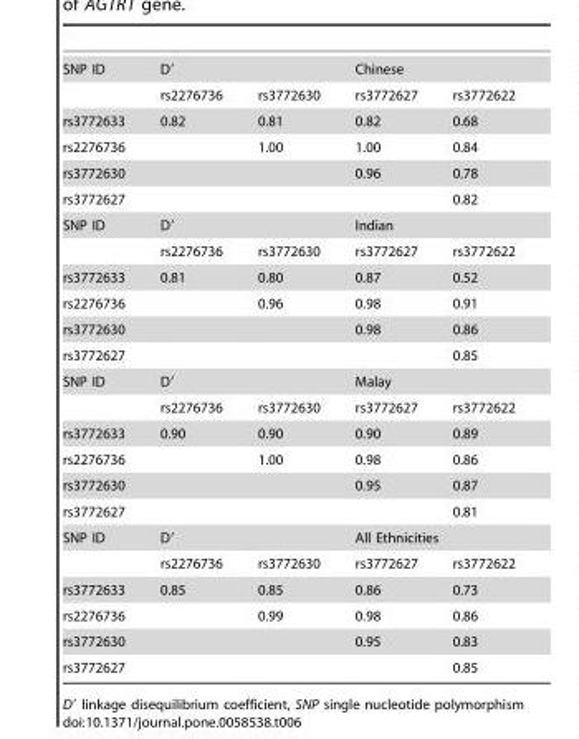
<table><tbody><tr><td rowspan="2">SNP ID</td><td colspan="2">D′</td><td colspan="2">Chinese</td></tr><tr><td>rs2276736</td><td>rs3772630</td><td>rs3772627</td><td>rs3772622</td></tr><tr><td>rs3772633</td><td>0.82</td><td>0.81</td><td>0.82</td><td>0.68</td></tr><tr><td>rs2276736</td><td></td><td>1.00</td><td>1.00</td><td>0.84</td></tr><tr><td>rs3772630</td><td></td><td></td><td>0.96</td><td>0.78</td></tr><tr><td>rs3772627</td><td></td><td></td><td></td><td>0.82</td></tr><tr><td rowspan="2">SNP ID</td><td colspan="2">D′</td><td colspan="2">Indian</td></tr><tr><td>rs2276736</td><td>rs3772630</td><td>rs3772627</td><td>rs3772622</td></tr><tr><td>rs3772633</td><td>0.81</td><td>0.80</td><td>0.87</td><td>0.52</td></tr><tr><td>rs2276736</td><td></td><td>0.96</td><td>0.98</td><td>0.91</td></tr><tr><td>rs3772630</td><td></td><td></td><td>0.98</td><td>0.86</td></tr><tr><td>rs3772627</td><td></td><td></td><td></td><td>0.85</td></tr><tr><td rowspan="2">SNP ID</td><td colspan="2">D′</td><td colspan="2">Malay</td></tr><tr><td>rs2276736</td><td>rs3772630</td><td>rs3772627</td><td>rs3772622</td></tr><tr><td>rs3772633</td><td>0.90</td><td>0.90</td><td>0.90</td><td>0.89</td></tr><tr><td>rs2276736</td><td></td><td>1.00</td><td>0.98</td><td>0.86</td></tr><tr><td>rs3772630</td><td></td><td></td><td>0.95</td><td>0.87</td></tr><tr><td>rs3772627</td><td></td><td></td><td></td><td>0.81</td></tr><tr><td rowspan="2">SNP ID</td><td colspan="2">D′</td><td colspan="2">All Ethnicities</td></tr><tr><td>rs2276736</td><td>rs3772630</td><td>rs3772627</td><td>rs3772622</td></tr><tr><td>rs3772633</td><td>0.85</td><td>0.85</td><td>0.86</td><td>0.73</td></tr><tr><td>rs2276736</td><td></td><td>0.99</td><td>0.98</td><td>0.86</td></tr><tr><td>rs3772630</td><td></td><td></td><td>0.95</td><td>0.83</td></tr><tr><td>rs3772627</td><td></td><td></td><td></td><td>0.85</td></tr></tbody></table>